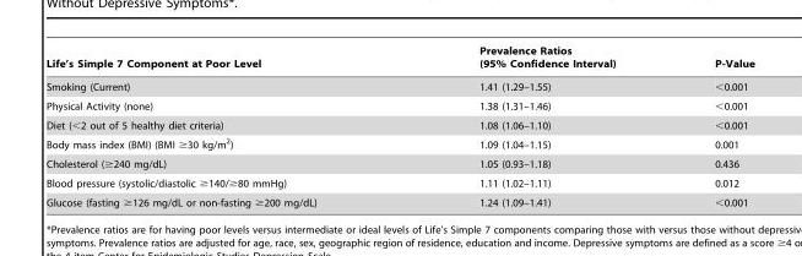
<table><thead><tr><td>Life’s Simple 7 Component at Poor Level</td><td>Prevalence Ratios (95% Confidence Interval)</td><td>P-Value</td></tr></thead><tbody><tr><td>Smoking (Current)</td><td>1.41 (1.29–1.55)</td><td>&lt;0.001</td></tr><tr><td>Physical Activity (none)</td><td>1.38 (1.31–1.46)</td><td>&lt;0.001</td></tr><tr><td>Diet (&lt;2 out of 5 healthy diet criteria)</td><td>1.08 (1.06–1.10)</td><td>&lt;0.001</td></tr><tr><td>Body mass index (BMI) (BMI ≥30 kg/m<sup>2</sup>)</td><td>1.09 (1.04–1.15)</td><td>0.001</td></tr><tr><td>Cholesterol (≥240 mg/dL)</td><td>1.05 (0.93–1.18)</td><td>0.436</td></tr><tr><td>Blood pressure (systolic/diastolic ≥140/≥80 mmHg)</td><td>1.11 (1.02–1.11)</td><td>0.012</td></tr><tr><td>Glucose (fasting ≥126 mg/dL or non-fasting ≥200 mg/dL)</td><td>1.24 (1.09–1.41)</td><td>&lt;0.001</td></tr></tbody></table>